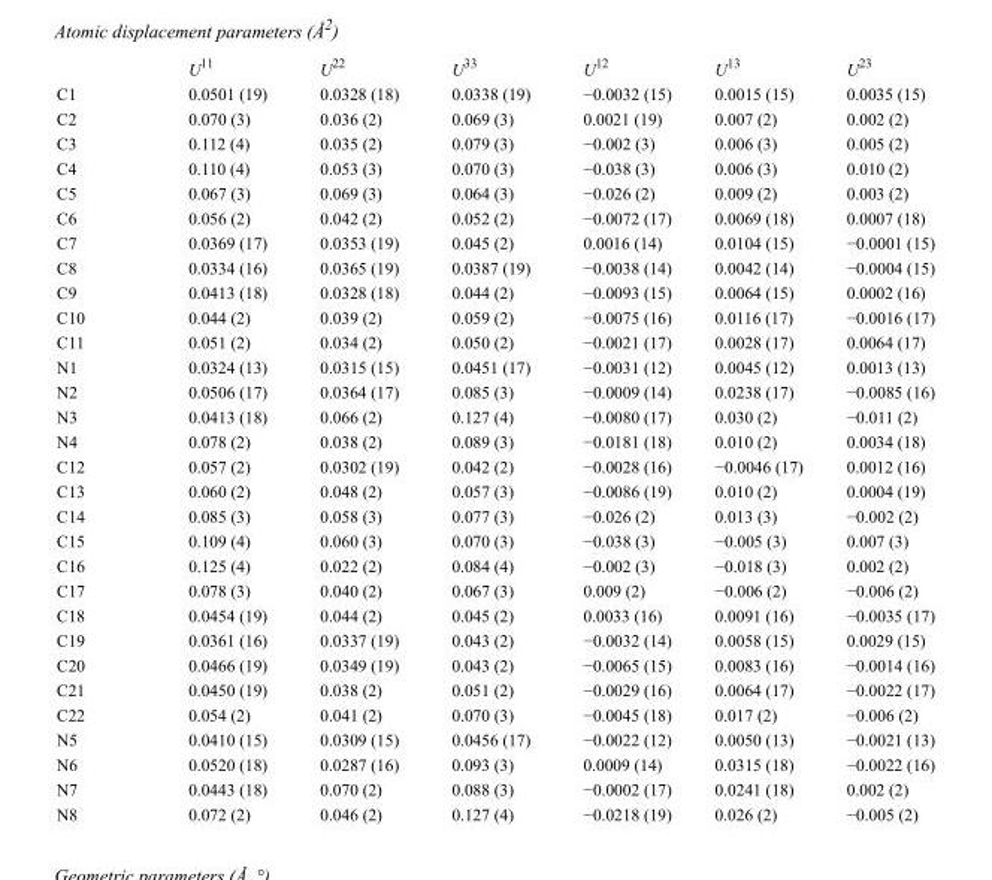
<table><thead><tr><td></td><td>U<sup>11</sup></td><td>U<sup>22</sup></td><td>U<sup>33</sup></td><td>U<sup>12</sup></td><td>U<sup>13</sup></td><td>U<sup>23</sup></td></tr></thead><tbody><tr><td>C1</td><td>0.0501 (19)</td><td>0.0328 (18)</td><td>0.0338 (19)</td><td>−0.0032 (15)</td><td>0.0015 (15)</td><td>0.0035 (15)</td></tr><tr><td>C2</td><td>0.070 (3)</td><td>0.036 (2)</td><td>0.069 (3)</td><td>0.0021 (19)</td><td>0.007 (2)</td><td>0.002 (2)</td></tr><tr><td>C3</td><td>0.112 (4)</td><td>0.035 (2)</td><td>0.079 (3)</td><td>−0.002 (3)</td><td>0.006 (3)</td><td>0.005 (2)</td></tr><tr><td>C4</td><td>0.110 (4)</td><td>0.053 (3)</td><td>0.070 (3)</td><td>−0.038 (3)</td><td>0.006 (3)</td><td>0.010 (2)</td></tr><tr><td>C5</td><td>0.067 (3)</td><td>0.069 (3)</td><td>0.064 (3)</td><td>−0.026 (2)</td><td>0.009 (2)</td><td>0.003 (2)</td></tr><tr><td>C6</td><td>0.056 (2)</td><td>0.042 (2)</td><td>0.052 (2)</td><td>−0.0072 (17)</td><td>0.0069 (18)</td><td>0.0007 (18)</td></tr><tr><td>C7</td><td>0.0369 (17)</td><td>0.0353 (19)</td><td>0.045 (2)</td><td>0.0016 (14)</td><td>0.0104 (15)</td><td>−0.0001 (15)</td></tr><tr><td>C8</td><td>0.0334 (16)</td><td>0.0365 (19)</td><td>0.0387 (19)</td><td>−0.0038 (14)</td><td>0.0042 (14)</td><td>−0.0004 (15)</td></tr><tr><td>C9</td><td>0.0413 (18)</td><td>0.0328 (18)</td><td>0.044 (2)</td><td>−0.0093 (15)</td><td>0.0064 (15)</td><td>0.0002 (16)</td></tr><tr><td>C10</td><td>0.044 (2)</td><td>0.039 (2)</td><td>0.059 (2)</td><td>−0.0075 (16)</td><td>0.0116 (17)</td><td>−0.0016 (17)</td></tr><tr><td>C11</td><td>0.051 (2)</td><td>0.034 (2)</td><td>0.050 (2)</td><td>−0.0021 (17)</td><td>0.0028 (17)</td><td>0.0064 (17)</td></tr><tr><td>N1</td><td>0.0324 (13)</td><td>0.0315 (15)</td><td>0.0451 (17)</td><td>−0.0031 (12)</td><td>0.0045 (12)</td><td>0.0013 (13)</td></tr><tr><td>N2</td><td>0.0506 (17)</td><td>0.0364 (17)</td><td>0.085 (3)</td><td>−0.0009 (14)</td><td>0.0238 (17)</td><td>−0.0085 (16)</td></tr><tr><td>N3</td><td>0.0413 (18)</td><td>0.066 (2)</td><td>0.127 (4)</td><td>−0.0080 (17)</td><td>0.030 (2)</td><td>−0.011 (2)</td></tr><tr><td>N4</td><td>0.078 (2)</td><td>0.038 (2)</td><td>0.089 (3)</td><td>−0.0181 (18)</td><td>0.010 (2)</td><td>0.0034 (18)</td></tr><tr><td>C12</td><td>0.057 (2)</td><td>0.0302 (19)</td><td>0.042 (2)</td><td>−0.0028 (16)</td><td>−0.0046 (17)</td><td>0.0012 (16)</td></tr><tr><td>C13</td><td>0.060 (2)</td><td>0.048 (2)</td><td>0.057 (3)</td><td>−0.0086 (19)</td><td>0.010 (2)</td><td>0.0004 (19)</td></tr><tr><td>C14</td><td>0.085 (3)</td><td>0.058 (3)</td><td>0.077 (3)</td><td>−0.026 (2)</td><td>0.013 (3)</td><td>−0.002 (2)</td></tr><tr><td>C15</td><td>0.109 (4)</td><td>0.060 (3)</td><td>0.070 (3)</td><td>−0.038 (3)</td><td>−0.005 (3)</td><td>0.007 (3)</td></tr><tr><td>C16</td><td>0.125 (4)</td><td>0.022 (2)</td><td>0.084 (4)</td><td>−0.002 (3)</td><td>−0.018 (3)</td><td>0.002 (2)</td></tr><tr><td>C17</td><td>0.078 (3)</td><td>0.040 (2)</td><td>0.067 (3)</td><td>0.009 (2)</td><td>−0.006 (2)</td><td>−0.006 (2)</td></tr><tr><td>C18</td><td>0.0454 (19)</td><td>0.044 (2)</td><td>0.045 (2)</td><td>0.0033 (16)</td><td>0.0091 (16)</td><td>−0.0035 (17)</td></tr><tr><td>C19</td><td>0.0361 (16)</td><td>0.0337 (19)</td><td>0.043 (2)</td><td>−0.0032 (14)</td><td>0.0058 (15)</td><td>0.0029 (15)</td></tr><tr><td>C20</td><td>0.0466 (19)</td><td>0.0349 (19)</td><td>0.043 (2)</td><td>−0.0065 (15)</td><td>0.0083 (16)</td><td>−0.0014 (16)</td></tr><tr><td>C21</td><td>0.0450 (19)</td><td>0.038 (2)</td><td>0.051 (2)</td><td>−0.0029 (16)</td><td>0.0064 (17)</td><td>−0.0022 (17)</td></tr><tr><td>C22</td><td>0.054 (2)</td><td>0.041 (2)</td><td>0.070 (3)</td><td>−0.0045 (18)</td><td>0.017 (2)</td><td>−0.006 (2)</td></tr><tr><td>N5</td><td>0.0410 (15)</td><td>0.0309 (15)</td><td>0.0456 (17)</td><td>−0.0022 (12)</td><td>0.0050 (13)</td><td>−0.0021 (13)</td></tr><tr><td>N6</td><td>0.0520 (18)</td><td>0.0287 (16)</td><td>0.093 (3)</td><td>0.0009 (14)</td><td>0.0315 (18)</td><td>−0.0022 (16)</td></tr><tr><td>N7</td><td>0.0443 (18)</td><td>0.070 (2)</td><td>0.088 (3)</td><td>−0.0002 (17)</td><td>0.0241 (18)</td><td>0.002 (2)</td></tr><tr><td>N8</td><td>0.072 (2)</td><td>0.046 (2)</td><td>0.127 (4)</td><td>−0.0218 (19)</td><td>0.026 (2)</td><td>−0.005 (2)</td></tr></tbody></table>